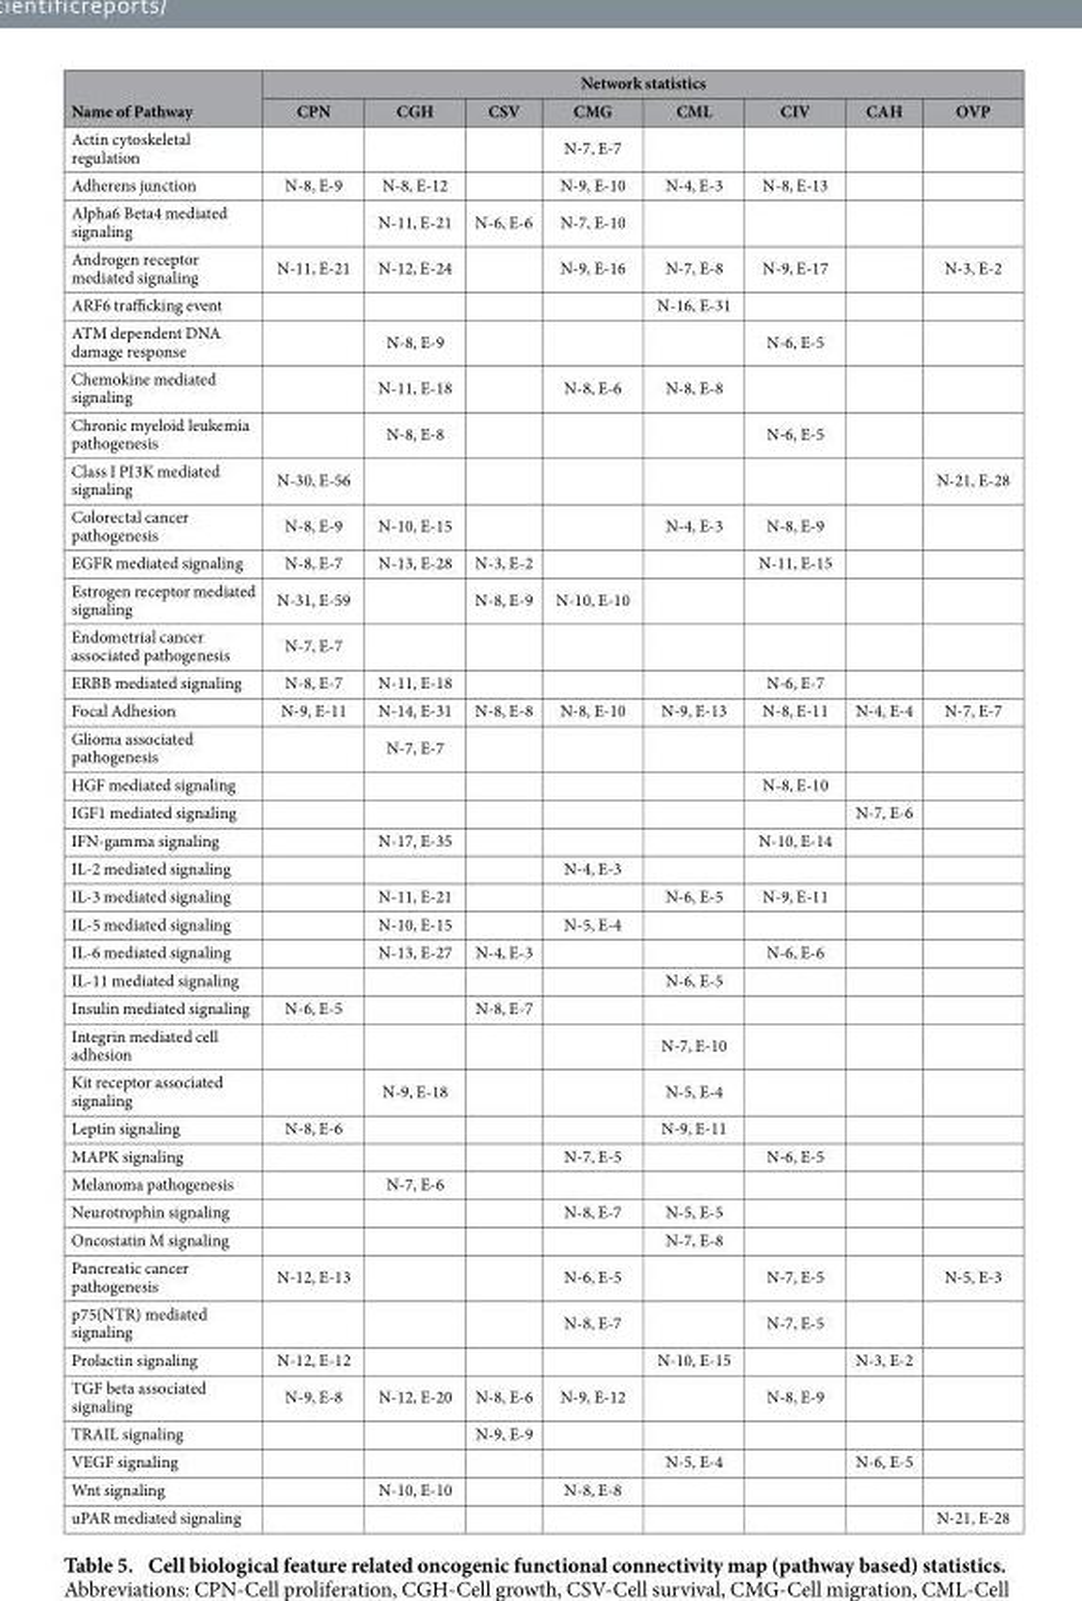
<table><thead><tr><td rowspan="2">Name of Pathway</td><td colspan="8">Network statistics</td></tr><tr><td>CPN</td><td>CGH</td><td>CSV</td><td>CMG</td><td>CML</td><td>CIV</td><td>CAH</td><td>OVP</td></tr></thead><tbody><tr><td>Actin cytoskeletal regulation</td><td></td><td></td><td></td><td>N-7, E-7</td><td></td><td></td><td></td><td></td></tr><tr><td>Adherens junction</td><td>N-8, E-9</td><td>N-8, E-12</td><td></td><td>N-9, E-10</td><td>N-4, E-3</td><td>N-8, E-13</td><td></td><td></td></tr><tr><td>Alpha6 Beta4 mediated signaling</td><td></td><td>N-11, E-21</td><td>N-6, E-6</td><td>N-7, E-10</td><td></td><td></td><td></td><td></td></tr><tr><td>Androgen receptor mediated signaling</td><td>N-11, E-21</td><td>N-12, E-24</td><td></td><td>N-9, E-16</td><td>N-7, E-8</td><td>N-9, E-17</td><td></td><td>N-3, E-2</td></tr><tr><td>ARF6 trafficking event</td><td></td><td></td><td></td><td></td><td>N-16, E-31</td><td></td><td></td><td></td></tr><tr><td>ATM dependent DNA damage response</td><td></td><td>N-8, E-9</td><td></td><td></td><td></td><td>N-6, E-5</td><td></td><td></td></tr><tr><td>Chemokine mediated signaling</td><td></td><td>N-11, E-18</td><td></td><td>N-8, E-6</td><td>N-8, E-8</td><td></td><td></td><td></td></tr><tr><td>Chronic myeloid leukemia pathogenesis</td><td></td><td>N-8, E-8</td><td></td><td></td><td></td><td>N-6, E-5</td><td></td><td></td></tr><tr><td>Class I PI3K mediated signaling</td><td>N-30, E-56</td><td></td><td></td><td></td><td></td><td></td><td></td><td>N-21, E-28</td></tr><tr><td>Colorectal cancer pathogenesis</td><td>N-8, E-9</td><td>N-10, E-15</td><td></td><td></td><td>N-4, E-3</td><td>N-8, E-9</td><td></td><td></td></tr><tr><td>EGFR mediated signaling</td><td>N-8, E-7</td><td>N-13, E-28</td><td>N-3, E-2</td><td></td><td></td><td>N-11, E-15</td><td></td><td></td></tr><tr><td>Estrogen receptor mediated signaling</td><td>N-31, E-59</td><td></td><td>N-8, E-9</td><td>N-10, E-10</td><td></td><td></td><td></td><td></td></tr><tr><td>Endometrial cancer associated pathogenesis</td><td>N-7, E-7</td><td></td><td></td><td></td><td></td><td></td><td></td><td></td></tr><tr><td>ERBB mediated signaling</td><td>N-8, E-7</td><td>N-11, E-18</td><td></td><td></td><td></td><td>N-6, E-7</td><td></td><td></td></tr><tr><td>Focal Adhesion</td><td>N-9, E-11</td><td>N-14, E-31</td><td>N-8, E-8</td><td>N-8, E-10</td><td>N-9, E-13</td><td>N-8, E-11</td><td>N-4, E-4</td><td>N-7, E-7</td></tr><tr><td>Glioma associated pathogenesis</td><td></td><td>N-7, E-7</td><td></td><td></td><td></td><td></td><td></td><td></td></tr><tr><td>HGF mediated signaling</td><td></td><td></td><td></td><td></td><td></td><td>N-8, E-10</td><td></td><td></td></tr><tr><td>IGF1 mediated signaling</td><td></td><td></td><td></td><td></td><td></td><td></td><td>N-7, E-6</td><td></td></tr><tr><td>IFN-gamma signaling</td><td></td><td>N-17, E-35</td><td></td><td></td><td></td><td>N-10, E-14</td><td></td><td></td></tr><tr><td>IL-2 mediated signaling</td><td></td><td></td><td></td><td>N-4, E-3</td><td></td><td></td><td></td><td></td></tr><tr><td>IL-3 mediated signaling</td><td></td><td>N-11, E-21</td><td></td><td></td><td>N-6, E-5</td><td>N-9, E-11</td><td></td><td></td></tr><tr><td>IL-5 mediated signaling</td><td></td><td>N-10, E-15</td><td></td><td>N-5, E-4</td><td></td><td></td><td></td><td></td></tr><tr><td>IL-6 mediated signaling</td><td></td><td>N-13, E-27</td><td>N-4, E-3</td><td></td><td></td><td>N-6, E-6</td><td></td><td></td></tr><tr><td>IL-11 mediated signaling</td><td></td><td></td><td></td><td></td><td>N-6, E-5</td><td></td><td></td><td></td></tr><tr><td>Insulin mediated signaling</td><td>N-6, E-5</td><td></td><td>N-8, E-7</td><td></td><td></td><td></td><td></td><td></td></tr><tr><td>Integrin mediated cell adhesion</td><td></td><td></td><td></td><td></td><td>N-7, E-10</td><td></td><td></td><td></td></tr><tr><td>Kit receptor associated signaling</td><td></td><td>N-9, E-18</td><td></td><td></td><td>N-5, E-4</td><td></td><td></td><td></td></tr><tr><td>Leptin signaling</td><td>N-8, E-6</td><td></td><td></td><td></td><td>N-9, E-11</td><td></td><td></td><td></td></tr><tr><td>MAPK signaling</td><td></td><td></td><td></td><td>N-7, E-5</td><td></td><td>N-6, E-5</td><td></td><td></td></tr><tr><td>Melanoma pathogenesis</td><td></td><td>N-7, E-6</td><td></td><td></td><td></td><td></td><td></td><td></td></tr><tr><td>Neurotrophin signaling</td><td></td><td></td><td></td><td>N-8, E-7</td><td>N-5, E-5</td><td></td><td></td><td></td></tr><tr><td>Oncostatin M signaling</td><td></td><td></td><td></td><td></td><td>N-7, E-8</td><td></td><td></td><td></td></tr><tr><td>Pancreatic cancer pathogenesis</td><td>N-12, E-13</td><td></td><td></td><td>N-6, E-5</td><td></td><td>N-7, E-5</td><td></td><td>N-5, E-3</td></tr><tr><td>p75(NTR) mediated signaling</td><td></td><td></td><td></td><td>N-8, E-7</td><td></td><td>N-7, E-5</td><td></td><td></td></tr><tr><td>Prolactin signaling</td><td>N-12, E-12</td><td></td><td></td><td></td><td>N-10, E-15</td><td></td><td>N-3, E-2</td><td></td></tr><tr><td>TGF beta associated signaling</td><td>N-9, E-8</td><td>N-12, E-20</td><td>N-8, E-6</td><td>N-9, E-12</td><td></td><td>N-8, E-9</td><td></td><td></td></tr><tr><td>TRAIL signaling</td><td></td><td></td><td>N-9, E-9</td><td></td><td></td><td></td><td></td><td></td></tr><tr><td>VEGF signaling</td><td></td><td></td><td></td><td></td><td>N-5, E-4</td><td></td><td>N-6, E-5</td><td></td></tr><tr><td>Wnt signaling</td><td></td><td>N-10, E-10</td><td></td><td>N-8, E-8</td><td></td><td></td><td></td><td></td></tr><tr><td>uPAR mediated signaling</td><td></td><td></td><td></td><td></td><td></td><td></td><td></td><td>N-21, E-28</td></tr></tbody></table>